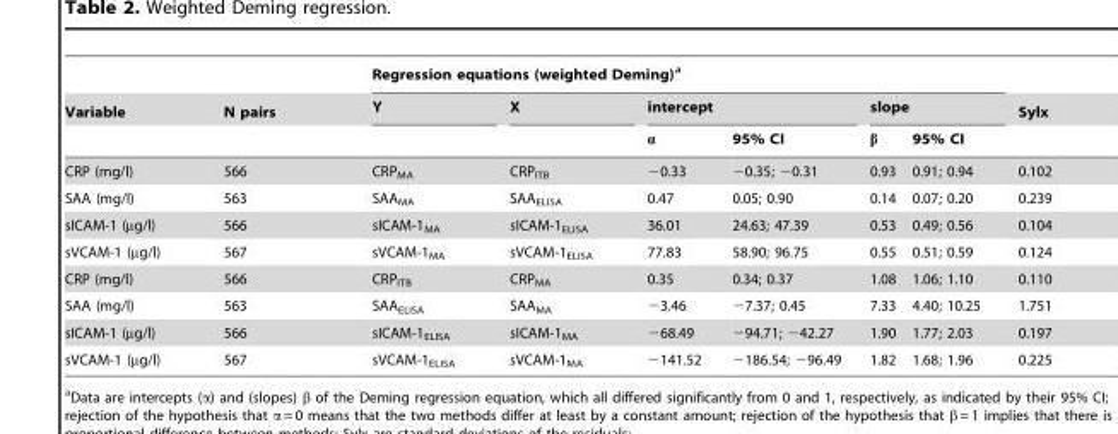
<table><thead><tr><td rowspan="3">Variable</td><td rowspan="3">N pairs</td><td colspan="6">Regression equations (weighted Deming)<sup>a</sup></td><td rowspan="3">Sylx</td></tr><tr><td rowspan="2">Y</td><td rowspan="2">X</td><td colspan="2">intercept</td><td colspan="2">slope</td></tr><tr><td>α</td><td>95% CI</td><td>β</td><td>95% CI</td></tr></thead><tbody><tr><td>CRP (mg/l)</td><td>566</td><td>CRP<sub>MA</sub></td><td>CRP<sub>ITB</sub></td><td>−0.33</td><td>−0.35; −0.31</td><td>0.93</td><td>0.91; 0.94</td><td>0.102</td></tr><tr><td>SAA (mg/l)</td><td>563</td><td>SAA<sub>MA</sub></td><td>SAA<sub>ELISA</sub></td><td>0.47</td><td>0.05; 0.90</td><td>0.14</td><td>0.07; 0.20</td><td>0.239</td></tr><tr><td>sICAM-1 (µg/l)</td><td>566</td><td>sICAM-1<sub>MA</sub></td><td>sICAM-1<sub>ELISA</sub></td><td>36.01</td><td>24.63; 47.39</td><td>0.53</td><td>0.49; 0.56</td><td>0.104</td></tr><tr><td>sVCAM-1 (µg/l)</td><td>567</td><td>sVCAM-1<sub>MA</sub></td><td>sVCAM-1<sub>ELISA</sub></td><td>77.83</td><td>58.90; 96.75</td><td>0.55</td><td>0.51; 0.59</td><td>0.124</td></tr><tr><td>CRP (mg/l)</td><td>566</td><td>CRP<sub>ITB</sub></td><td>CRP<sub>MA</sub></td><td>0.35</td><td>0.34; 0.37</td><td>1.08</td><td>1.06; 1.10</td><td>0.110</td></tr><tr><td>SAA (mg/l)</td><td>563</td><td>SAA<sub>ELISA</sub></td><td>SAA<sub>MA</sub></td><td>−3.46</td><td>−7.37; 0.45</td><td>7.33</td><td>4.40; 10.25</td><td>1.751</td></tr><tr><td>sICAM-1 (µg/l)</td><td>566</td><td>sICAM-1<sub>ELISA</sub></td><td>sICAM-1<sub>MA</sub></td><td>−68.49</td><td>−94.71; −42.27</td><td>1.90</td><td>1.77; 2.03</td><td>0.197</td></tr><tr><td>sVCAM-1 (µg/l)</td><td>567</td><td>sVCAM-1<sub>ELISA</sub></td><td>sVCAM-1<sub>MA</sub></td><td>−141.52</td><td>−186.54; −96.49</td><td>1.82</td><td>1.68; 1.96</td><td>0.225</td></tr></tbody></table>